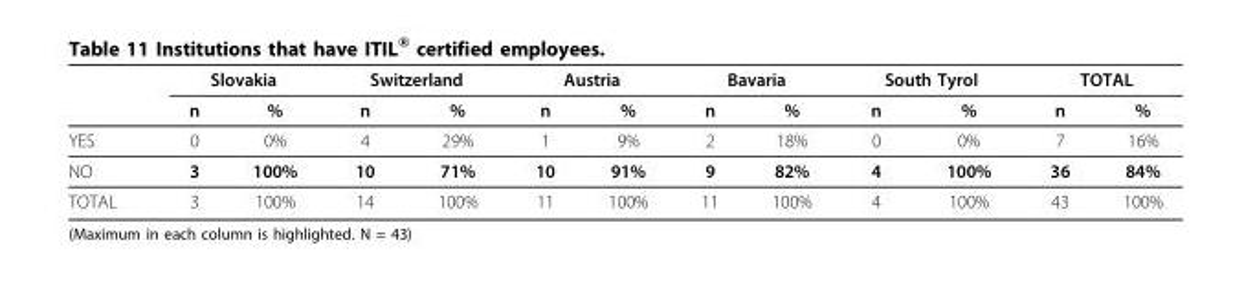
<table><thead><tr><td rowspan="2"></td><td colspan="2">Slovakia</td><td colspan="2">Switzerland</td><td colspan="2">Austria</td><td colspan="2">Bavaria</td><td colspan="2">South Tyrol</td><td colspan="2">TOTAL</td></tr><tr><td>n</td><td>%</td><td>n</td><td>%</td><td>n</td><td>%</td><td>n</td><td>%</td><td>n</td><td>%</td><td>n</td><td>%</td></tr></thead><tbody><tr><td>YES</td><td>0</td><td>0%</td><td>4</td><td>29%</td><td>1</td><td>9%</td><td>2</td><td>18%</td><td>0</td><td>0%</td><td>7</td><td>16%</td></tr><tr><td>NO</td><td>3</td><td>100%</td><td>10</td><td>71%</td><td>10</td><td>91%</td><td>9</td><td>82%</td><td>4</td><td>100%</td><td>36</td><td>84%</td></tr><tr><td>TOTAL</td><td>3</td><td>100%</td><td>14</td><td>100%</td><td>11</td><td>100%</td><td>11</td><td>100%</td><td>4</td><td>100%</td><td>43</td><td>100%</td></tr></tbody></table>